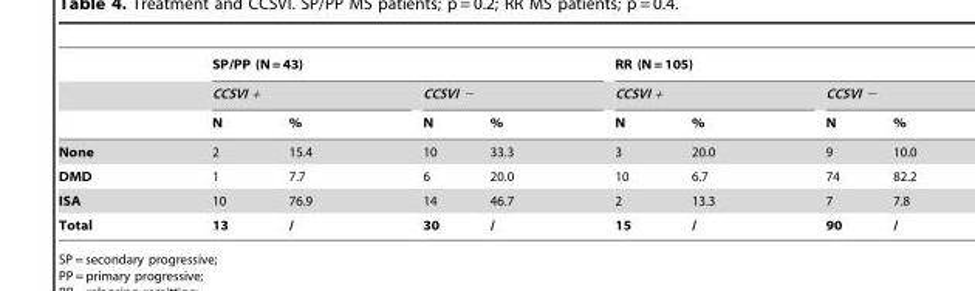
<table><thead><tr><td rowspan="3"></td><td colspan="4">SP/PP (N = 43)</td><td colspan="4">RR (N = 105)</td></tr><tr><td colspan="2">CCSVI +</td><td colspan="2">CCSVI −</td><td colspan="2">CCSVI +</td><td colspan="2">CCSVI −</td></tr><tr><td>N</td><td>%</td><td>N</td><td>%</td><td>N</td><td>%</td><td>N</td><td>%</td></tr></thead><tbody><tr><td>None</td><td>2</td><td>15.4</td><td>10</td><td>33.3</td><td>3</td><td>20.0</td><td>9</td><td>10.0</td></tr><tr><td>DMD</td><td>1</td><td>7.7</td><td>6</td><td>20.0</td><td>10</td><td>6.7</td><td>74</td><td>82.2</td></tr><tr><td>ISA</td><td>10</td><td>76.9</td><td>14</td><td>46.7</td><td>2</td><td>13.3</td><td>7</td><td>7.8</td></tr><tr><td>Total</td><td>13</td><td>/</td><td>30</td><td>/</td><td>15</td><td>/</td><td>90</td><td>/</td></tr></tbody></table>